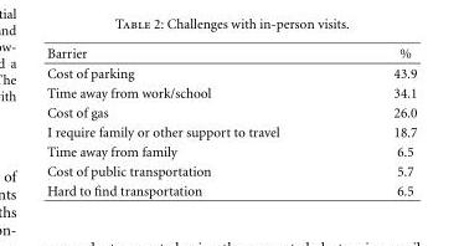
<table><thead><tr><td>Barrier</td><td>%</td></tr></thead><tbody><tr><td>Cost of parking</td><td>43.9</td></tr><tr><td>Time away from work/school</td><td>34.1</td></tr><tr><td>Cost of gas</td><td>26.0</td></tr><tr><td>I require family or other support to travel</td><td>18.7</td></tr><tr><td>Time away from family</td><td>6.5</td></tr><tr><td>Cost of public transportation</td><td>5.7</td></tr><tr><td>Hard to find transportation</td><td>6.5</td></tr></tbody></table>